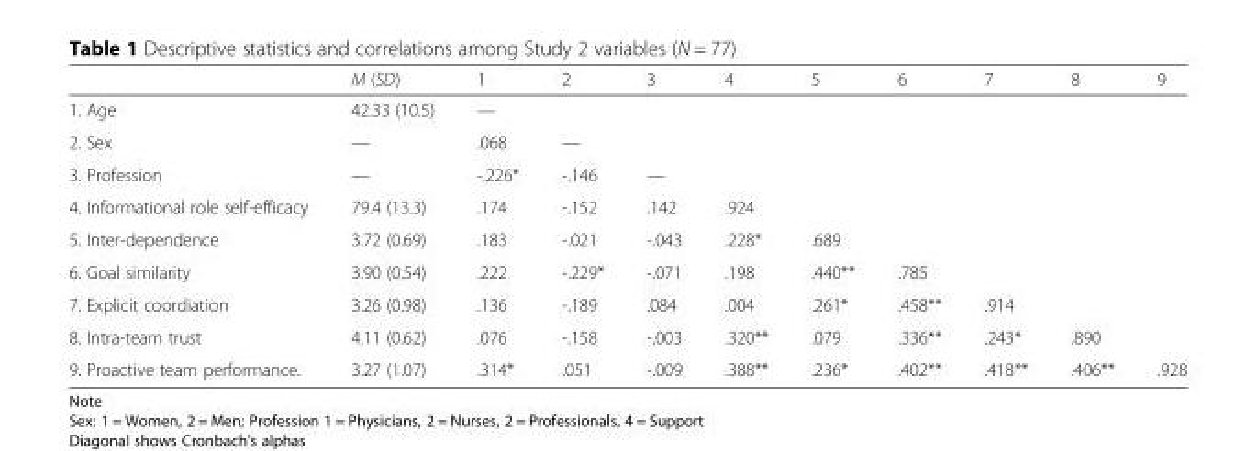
<table><thead><tr><td></td><td>M (SD)</td><td>1</td><td>2</td><td>3</td><td>4</td><td>5</td><td>6</td><td>7</td><td>8</td><td>9</td></tr></thead><tbody><tr><td>1. Age</td><td>42.33 (10.5)</td><td>—</td><td></td><td></td><td></td><td></td><td></td><td></td><td></td><td></td></tr><tr><td>2. Sex</td><td>—</td><td>.068</td><td>—</td><td></td><td></td><td></td><td></td><td></td><td></td><td></td></tr><tr><td>3. Profession</td><td>—</td><td>-.226*</td><td>-.146</td><td>—</td><td></td><td></td><td></td><td></td><td></td><td></td></tr><tr><td>4. Informational role self-efficacy</td><td>79.4 (13.3)</td><td>.174</td><td>-.152</td><td>.142</td><td>.924</td><td></td><td></td><td></td><td></td><td></td></tr><tr><td>5. Inter-dependence</td><td>3.72 (0.69)</td><td>.183</td><td>-.021</td><td>-.043</td><td>.228*</td><td>.689</td><td></td><td></td><td></td><td></td></tr><tr><td>6. Goal similarity</td><td>3.90 (0.54)</td><td>.222</td><td>-.229*</td><td>-.071</td><td>.198</td><td>.440**</td><td>.785</td><td></td><td></td><td></td></tr><tr><td>7. Explicit coordiation</td><td>3.26 (0.98)</td><td>.136</td><td>-.189</td><td>.084</td><td>.004</td><td>.261*</td><td>.458**</td><td>.914</td><td></td><td></td></tr><tr><td>8. Intra-team trust</td><td>4.11 (0.62)</td><td>.076</td><td>-.158</td><td>-.003</td><td>.320**</td><td>.079</td><td>.336**</td><td>.243*</td><td>.890</td><td></td></tr><tr><td>9. Proactive team performance.</td><td>3.27 (1.07)</td><td>.314*</td><td>.051</td><td>-.009</td><td>.388**</td><td>.236*</td><td>.402**</td><td>.418**</td><td>.406**</td><td>.928</td></tr></tbody></table>